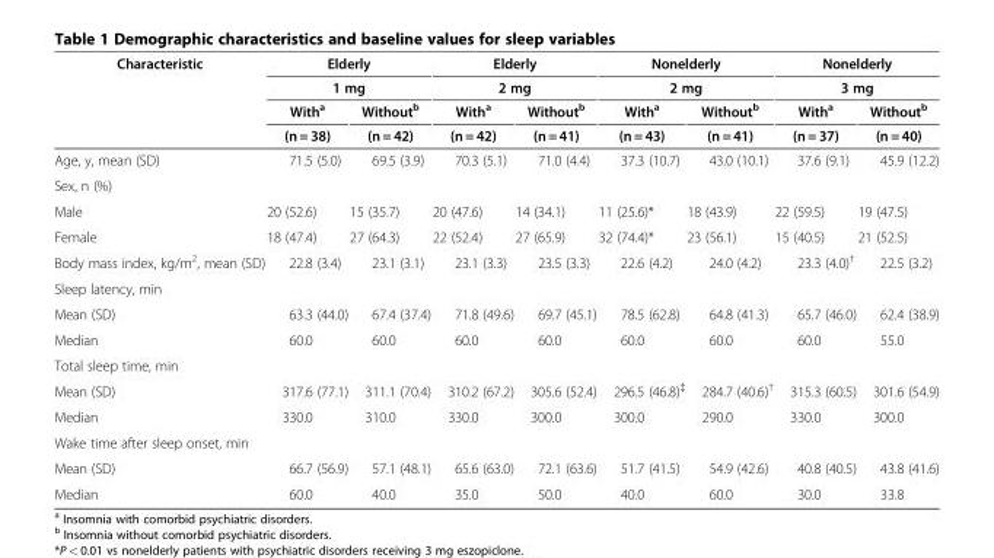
<table><thead><tr><td rowspan="4">Characteristic</td><td rowspan="2" colspan="2">Elderly 1 mg</td><td rowspan="2" colspan="2">Elderly 2 mg</td><td rowspan="2" colspan="2">Nonelderly 2 mg</td><td rowspan="2" colspan="2">Nonelderly 3 mg</td></tr><tr></tr><tr><td rowspan="2">With<sup>a</sup> (n = 38)</td><td rowspan="2">Without<sup>b</sup> (n = 42)</td><td rowspan="2">With<sup>a</sup> (n = 42)</td><td rowspan="2">Without<sup>b</sup> (n = 41)</td><td rowspan="2">With<sup>a</sup> (n = 43)</td><td rowspan="2">Without<sup>b</sup> (n = 41)</td><td rowspan="2">With<sup>a</sup> (n = 37)</td><td rowspan="2">Without<sup>b</sup> (n = 40)</td></tr><tr></tr></thead><tbody><tr><td>Age, y, mean (SD)</td><td>71.5 (5.0)</td><td>69.5 (3.9)</td><td>70.3 (5.1)</td><td>71.0 (4.4)</td><td>37.3 (10.7)</td><td>43.0 (10.1)</td><td>37.6 (9.1)</td><td>45.9 (12.2)</td></tr><tr><td colspan="9">Sex, n (%)</td></tr><tr><td>Male</td><td>20 (52.6)</td><td>15 (35.7)</td><td>20 (47.6)</td><td>14 (34.1)</td><td>11 (25.6)*</td><td>18 (43.9)</td><td>22 (59.5)</td><td>19 (47.5)</td></tr><tr><td>Female</td><td>18 (47.4)</td><td>27 (64.3)</td><td>22 (52.4)</td><td>27 (65.9)</td><td>32 (74.4)*</td><td>23 (56.1)</td><td>15 (40.5)</td><td>21 (52.5)</td></tr><tr><td>Body mass index, kg/m<sup>2</sup>, mean (SD)</td><td>22.8 (3.4)</td><td>23.1 (3.1)</td><td>23.1 (3.3)</td><td>23.5 (3.3)</td><td>22.6 (4.2)</td><td>24.0 (4.2)</td><td>23.3 (4.0)<sup>†</sup></td><td>22.5 (3.2)</td></tr><tr><td colspan="9">Sleep latency, min</td></tr><tr><td>Mean (SD)</td><td>63.3 (44.0)</td><td>67.4 (37.4)</td><td>71.8 (49.6)</td><td>69.7 (45.1)</td><td>78.5 (62.8)</td><td>64.8 (41.3)</td><td>65.7 (46.0)</td><td>62.4 (38.9)</td></tr><tr><td>Median</td><td>60.0</td><td>60.0</td><td>60.0</td><td>60.0</td><td>60.0</td><td>60.0</td><td>60.0</td><td>55.0</td></tr><tr><td colspan="9">Total sleep time, min</td></tr><tr><td>Mean (SD)</td><td>317.6 (77.1)</td><td>311.1 (70.4)</td><td>310.2 (67.2)</td><td>305.6 (52.4)</td><td>296.5 (46.8)<sup>‡</sup></td><td>284.7 (40.6)<sup>†</sup></td><td>315.3 (60.5)</td><td>301.6 (54.9)</td></tr><tr><td>Median</td><td>330.0</td><td>310.0</td><td>330.0</td><td>300.0</td><td>300.0</td><td>290.0</td><td>330.0</td><td>300.0</td></tr><tr><td colspan="9">Wake time after sleep onset, min</td></tr><tr><td>Mean (SD)</td><td>66.7 (56.9)</td><td>57.1 (48.1)</td><td>65.6 (63.0)</td><td>72.1 (63.6)</td><td>51.7 (41.5)</td><td>54.9 (42.6)</td><td>40.8 (40.5)</td><td>43.8 (41.6)</td></tr><tr><td>Median</td><td>60.0</td><td>40.0</td><td>35.0</td><td>50.0</td><td>40.0</td><td>60.0</td><td>30.0</td><td>33.8</td></tr></tbody></table>